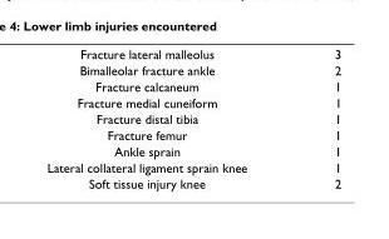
<table><tbody><tr><td>Fracture lateral malleolus</td><td>3</td></tr><tr><td>Bimalleolar fracture ankle</td><td>2</td></tr><tr><td>Fracture calcaneum</td><td>1</td></tr><tr><td>Fracture medial cuneiform</td><td>1</td></tr><tr><td>Fracture distal tibia</td><td>1</td></tr><tr><td>Fracture femur</td><td>1</td></tr><tr><td>Ankle sprain</td><td>1</td></tr><tr><td>Lateral collateral ligament sprain knee</td><td>1</td></tr><tr><td>Soft tissue injury knee</td><td>2</td></tr></tbody></table>